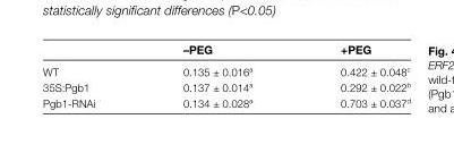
<table><thead><tr><td></td><td>–PEG</td><td>+PEG</td></tr></thead><tbody><tr><td>WT</td><td>0.135 ± 0.016<sup>a</sup></td><td>0.422 ± 0.048<sup>c</sup></td></tr><tr><td>35S:Pgb1</td><td>0.137 ± 0.014<sup>a</sup></td><td>0.292 ± 0.022<sup>b</sup></td></tr><tr><td>Pgb1-RNAi</td><td>0.134 ± 0.028<sup>a</sup></td><td>0.703 ± 0.037<sup>d</sup></td></tr></tbody></table>